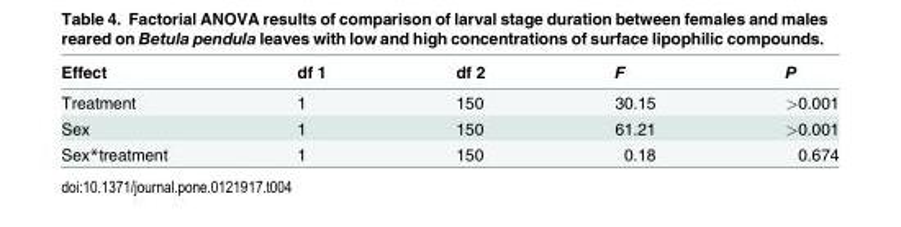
<table><thead><tr><td>Effect</td><td>df 1</td><td>df 2</td><td>F</td><td>P</td></tr></thead><tbody><tr><td>Treatment</td><td>1</td><td>150</td><td>30.15</td><td>&gt;0.001</td></tr><tr><td>Sex</td><td>1</td><td>150</td><td>61.21</td><td>&gt;0.001</td></tr><tr><td>Sex*treatment</td><td>1</td><td>150</td><td>0.18</td><td>0.674</td></tr></tbody></table>